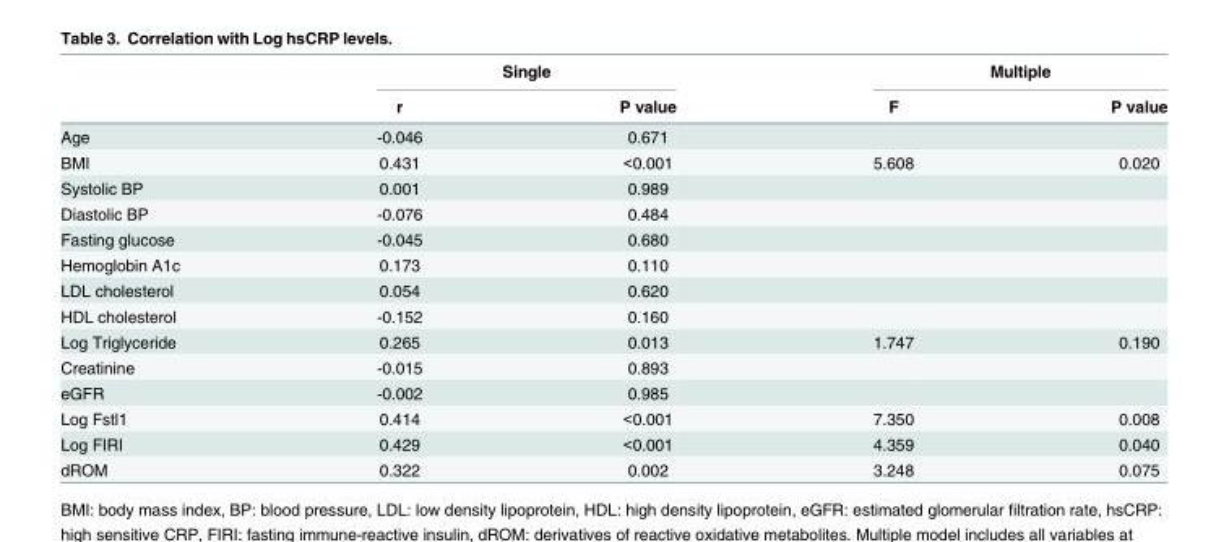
<table><thead><tr><td rowspan="2"></td><td colspan="2">Single</td><td colspan="2">Multiple</td></tr><tr><td>r</td><td>P value</td><td>F</td><td>P value</td></tr></thead><tbody><tr><td>Age</td><td>-0.046</td><td>0.671</td><td></td><td></td></tr><tr><td>BMI</td><td>0.431</td><td>&lt;0.001</td><td>5.608</td><td>0.020</td></tr><tr><td>Systolic BP</td><td>0.001</td><td>0.989</td><td></td><td></td></tr><tr><td>Diastolic BP</td><td>-0.076</td><td>0.484</td><td></td><td></td></tr><tr><td>Fasting glucose</td><td>-0.045</td><td>0.680</td><td></td><td></td></tr><tr><td>Hemoglobin A1c</td><td>0.173</td><td>0.110</td><td></td><td></td></tr><tr><td>LDL cholesterol</td><td>0.054</td><td>0.620</td><td></td><td></td></tr><tr><td>HDL cholesterol</td><td>-0.152</td><td>0.160</td><td></td><td></td></tr><tr><td>Log Triglyceride</td><td>0.265</td><td>0.013</td><td>1.747</td><td>0.190</td></tr><tr><td>Creatinine</td><td>-0.015</td><td>0.893</td><td></td><td></td></tr><tr><td>eGFR</td><td>-0.002</td><td>0.985</td><td></td><td></td></tr><tr><td>Log Fstl1</td><td>0.414</td><td>&lt;0.001</td><td>7.350</td><td>0.008</td></tr><tr><td>Log FIRI</td><td>0.429</td><td>&lt;0.001</td><td>4.359</td><td>0.040</td></tr><tr><td>dROM</td><td>0.322</td><td>0.002</td><td>3.248</td><td>0.075</td></tr></tbody></table>